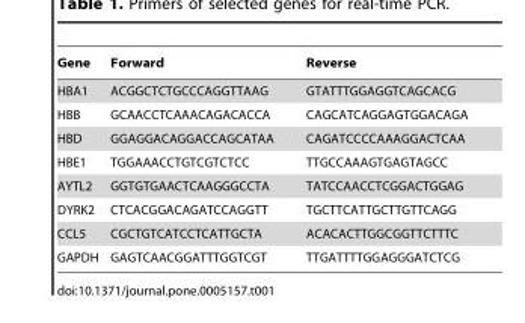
<table><thead><tr><td>Gene</td><td>Forward</td><td>Reverse</td></tr></thead><tbody><tr><td>HBA1</td><td>ACGGCTCTGCCCAGGTTAAG</td><td>GTATTTGGAGGTCAGCACG</td></tr><tr><td>HBB</td><td>GCAACCTCAAACAGACACCA</td><td>CAGCATCAGGAGTGGACAGA</td></tr><tr><td>HBD</td><td>GGAGGACAGGACCAGCATAA</td><td>CAGATCCCCAAAGGACTCAA</td></tr><tr><td>HBE1</td><td>TGGAAACCTGTCGTCTCC</td><td>TTGCCAAAGTGAGTAGCC</td></tr><tr><td>AYTL2</td><td>GGTGTGAACTCAAGGGCCTA</td><td>TATCCAACCTCGGACTGGAG</td></tr><tr><td>DYRK2</td><td>CTCACGGACAGATCCAGGTT</td><td>TGCTTCATTGCTTGTTCAGG</td></tr><tr><td>CCL5</td><td>CGCTGTCATCCTCATTGCTA</td><td>ACACACTTGGCGGTTCTTTC</td></tr><tr><td>GAPDH</td><td>GAGTCAACGGATTTGGTCGT</td><td>TTGATTTTGGAGGGATCTCG</td></tr></tbody></table>